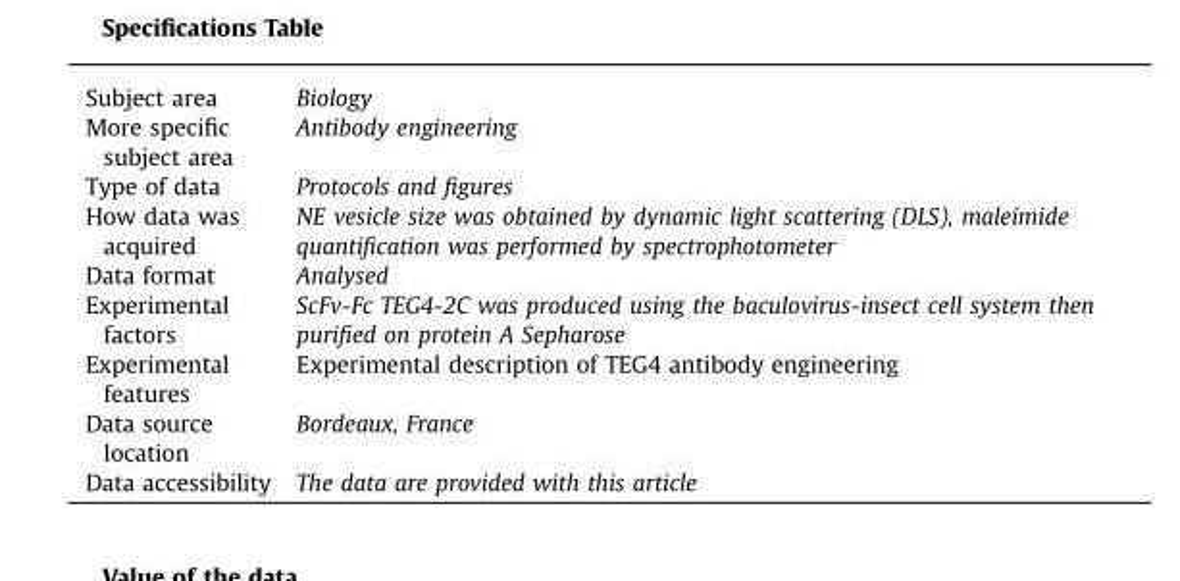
<table><tbody><tr><td>Subject area</td><td>Biology</td></tr><tr><td>More specific subject area</td><td>Antibody engineering</td></tr><tr><td>Type of data</td><td>Protocols and figures</td></tr><tr><td>How data was acquired</td><td>NE vesicle size was obtained by dynamic light scattering (DLS), maleimide quantification was performed by spectrophotometer</td></tr><tr><td>Data format</td><td>Analysed</td></tr><tr><td>Experimental factors</td><td>ScFv-Fc TEG4-2C was produced using the baculovirus-insect cell system then purified on protein A Sepharose</td></tr><tr><td>Experimental features</td><td>Experimental description of TEG4 antibody engineering</td></tr><tr><td>Data source location</td><td>Bordeaux, France</td></tr><tr><td>Data accessibility</td><td>The data are provided with this article</td></tr></tbody></table>